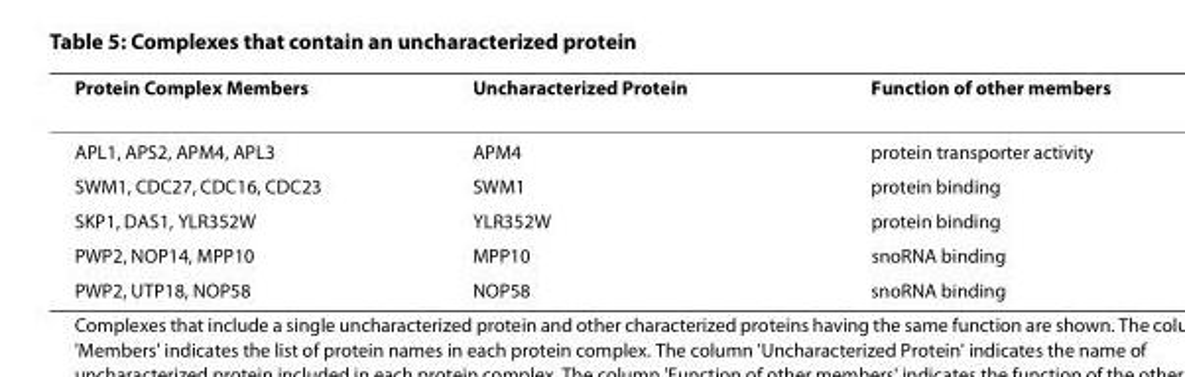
<table><thead><tr><td>Protein Complex Members</td><td>Uncharacterized Protein</td><td>Function of other members</td></tr></thead><tbody><tr><td>APL1, APS2, APM4, APL3</td><td>APM4</td><td>protein transporter activity</td></tr><tr><td>SWM1, CDC27, CDC16, CDC23</td><td>SWM1</td><td>protein binding</td></tr><tr><td>SKP1, DAS1, YLR352W</td><td>YLR352W</td><td>protein binding</td></tr><tr><td>PWP2, NOP14, MPP10</td><td>MPP10</td><td>snoRNA binding</td></tr><tr><td>PWP2, UTP18, NOP58</td><td>NOP58</td><td>snoRNA binding</td></tr></tbody></table>